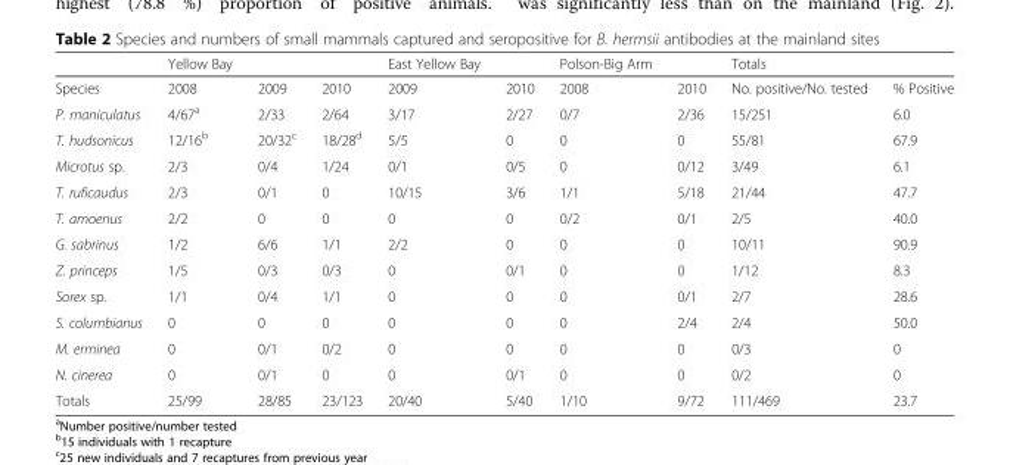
<table><thead><tr><td></td><td>Yellow Bay</td><td></td><td></td><td>East Yellow Bay</td><td></td><td>Polson-Big Arm</td><td></td><td>Totals</td><td></td></tr></thead><tbody><tr><td>Species</td><td>2008</td><td>2009</td><td>2010</td><td>2009</td><td>2010</td><td>2008</td><td>2010</td><td>No. positive/No. tested</td><td>% Positive</td></tr><tr><td>P. maniculatus</td><td>4/67<sup>a</sup></td><td>2/33</td><td>2/64</td><td>3/17</td><td>2/27</td><td>0/7</td><td>2/36</td><td>15/251</td><td>6.0</td></tr><tr><td>T. hudsonicus</td><td>12/16<sup>b</sup></td><td>20/32<sup>c</sup></td><td>18/28<sup>d</sup></td><td>5/5</td><td>0</td><td>0</td><td>0</td><td>55/81</td><td>67.9</td></tr><tr><td>Microtus sp.</td><td>2/3</td><td>0/4</td><td>1/24</td><td>0/1</td><td>0/5</td><td>0</td><td>0/12</td><td>3/49</td><td>6.1</td></tr><tr><td>T. ruficaudus</td><td>2/3</td><td>0/1</td><td>0</td><td>10/15</td><td>3/6</td><td>1/1</td><td>5/18</td><td>21/44</td><td>47.7</td></tr><tr><td>T. amoenus</td><td>2/2</td><td>0</td><td>0</td><td>0</td><td>0</td><td>0/2</td><td>0/1</td><td>2/5</td><td>40.0</td></tr><tr><td>G. sabrinus</td><td>1/2</td><td>6/6</td><td>1/1</td><td>2/2</td><td>0</td><td>0</td><td>0</td><td>10/11</td><td>90.9</td></tr><tr><td>Z. princeps</td><td>1/5</td><td>0/3</td><td>0/3</td><td>0</td><td>0/1</td><td>0</td><td>0</td><td>1/12</td><td>8.3</td></tr><tr><td>Sorex sp.</td><td>1/1</td><td>0/4</td><td>1/1</td><td>0</td><td>0</td><td>0</td><td>0/1</td><td>2/7</td><td>28.6</td></tr><tr><td>S. columbianus</td><td>0</td><td>0</td><td>0</td><td>0</td><td>0</td><td>0</td><td>2/4</td><td>2/4</td><td>50.0</td></tr><tr><td>M. erminea</td><td>0</td><td>0/1</td><td>0/2</td><td>0</td><td>0</td><td>0</td><td>0</td><td>0/3</td><td>0</td></tr><tr><td>N. cinerea</td><td>0</td><td>0/1</td><td>0</td><td>0</td><td>0/1</td><td>0</td><td>0</td><td>0/2</td><td>0</td></tr><tr><td>Totals</td><td>25/99</td><td>28/85</td><td>23/123</td><td>20/40</td><td>5/40</td><td>1/10</td><td>9/72</td><td>111/469</td><td>23.7</td></tr></tbody></table>